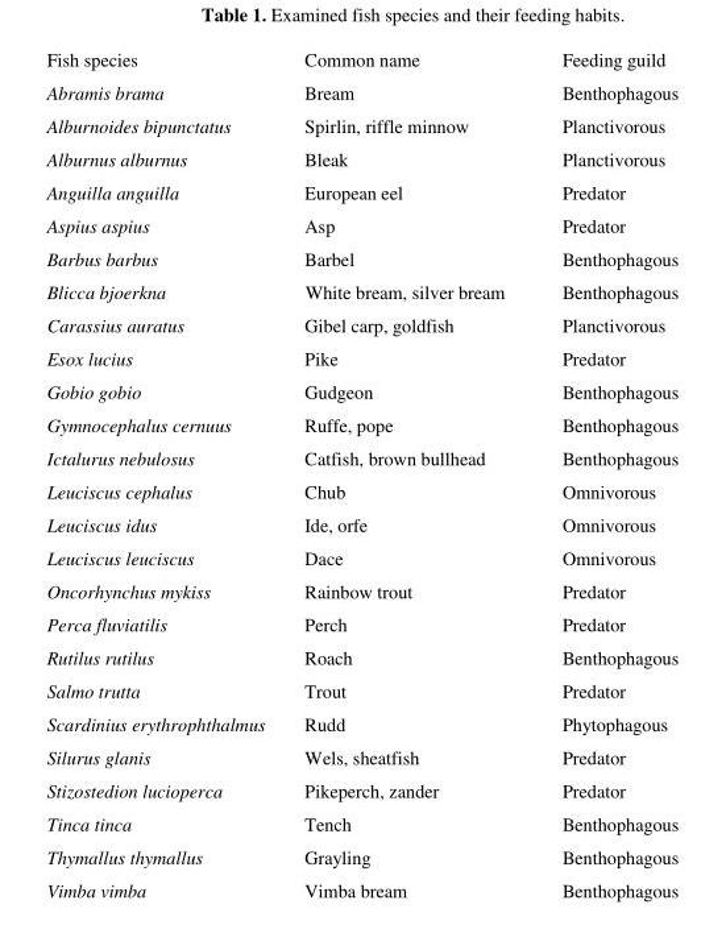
<table><tbody><tr><td>Fish species</td><td>Common name</td><td>Feeding guild</td></tr><tr><td>Abramis brama</td><td>Bream</td><td>Benthophagous</td></tr><tr><td>Alburnoides bipunctatus</td><td>Spirlin, riffle minnow</td><td>Planctivorous</td></tr><tr><td>Alburnus alburnus</td><td>Bleak</td><td>Planctivorous</td></tr><tr><td>Anguilla anguilla</td><td>European eel</td><td>Predator</td></tr><tr><td>Aspius aspius</td><td>Asp</td><td>Predator</td></tr><tr><td>Barbus barbus</td><td>Barbel</td><td>Benthophagous</td></tr><tr><td>Blicca bjoerkna</td><td>White bream, silver bream</td><td>Benthophagous</td></tr><tr><td>Carassius auratus</td><td>Gibel carp, goldfish</td><td>Planctivorous</td></tr><tr><td>Esox lucius</td><td>Pike</td><td>Predator</td></tr><tr><td>Gobio gobio</td><td>Gudgeon</td><td>Benthophagous</td></tr><tr><td>Gymnocephalus cernuus</td><td>Ruffe, pope</td><td>Benthophagous</td></tr><tr><td>Ictalurus nebulosus</td><td>Catfish, brown bullhead</td><td>Benthophagous</td></tr><tr><td>Leuciscus cephalus</td><td>Chub</td><td>Omnivorous</td></tr><tr><td>Leuciscus idus</td><td>Ide, orfe</td><td>Omnivorous</td></tr><tr><td>Leuciscus leuciscus</td><td>Dace</td><td>Omnivorous</td></tr><tr><td>Oncorhynchus mykiss</td><td>Rainbow trout</td><td>Predator</td></tr><tr><td>Perca fluviatilis</td><td>Perch</td><td>Predator</td></tr><tr><td>Rutilus rutilus</td><td>Roach</td><td>Benthophagous</td></tr><tr><td>Salmo trutta</td><td>Trout</td><td>Predator</td></tr><tr><td>Scardinius erythrophthalmus</td><td>Rudd</td><td>Phytophagous</td></tr><tr><td>Silurus glanis</td><td>Wels, sheatfish</td><td>Predator</td></tr><tr><td>Stizostedion lucioperca</td><td>Pikeperch, zander</td><td>Predator</td></tr><tr><td>Tinca tinca</td><td>Tench</td><td>Benthophagous</td></tr><tr><td>Thymallus thymallus</td><td>Grayling</td><td>Benthophagous</td></tr><tr><td>Vimba vimba</td><td>Vimba bream</td><td>Benthophagous</td></tr></tbody></table>